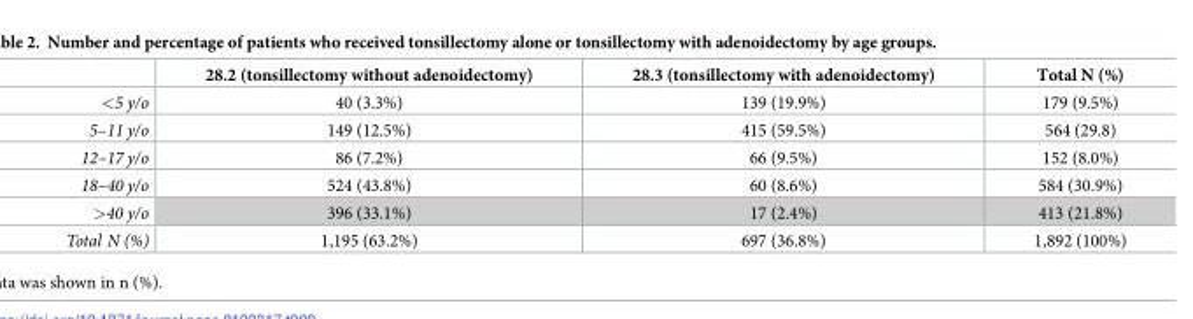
<table><thead><tr><td></td><td>28.2 (tonsillectomy without adenoidectomy)</td><td>28.3 (tonsillectomy with adenoidectomy)</td><td>Total N (%)</td></tr></thead><tbody><tr><td>&lt;5 y/o</td><td>40 (3.3%)</td><td>139 (19.9%)</td><td>179 (9.5%)</td></tr><tr><td>5–11 y/o</td><td>149 (12.5%)</td><td>415 (59.5%)</td><td>564 (29.8)</td></tr><tr><td>12–17 y/o</td><td>86 (7.2%)</td><td>66 (9.5%)</td><td>152 (8.0%)</td></tr><tr><td>18–40 y/o</td><td>524 (43.8%)</td><td>60 (8.6%)</td><td>584 (30.9%)</td></tr><tr><td>&gt;40 y/o</td><td>396 (33.1%)</td><td>17 (2.4%)</td><td>413 (21.8%)</td></tr><tr><td>Total N (%)</td><td>1,195 (63.2%)</td><td>697 (36.8%)</td><td>1,892 (100%)</td></tr></tbody></table>